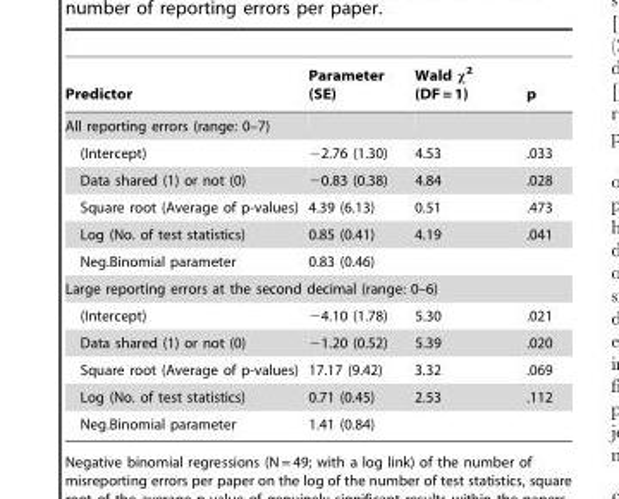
<table><thead><tr><td>Predictor</td><td>Parameter (SE)</td><td>Wald χ<sup>2</sup> (DF = 1)</td><td>p</td></tr></thead><tbody><tr><td colspan="4">All reporting errors (range: 0–7)</td></tr><tr><td>(Intercept)</td><td>−2.76 (1.30)</td><td>4.53</td><td>.033</td></tr><tr><td>Data shared (1) or not (0)</td><td>−0.83 (0.38)</td><td>4.84</td><td>.028</td></tr><tr><td>Square root (Average of p-values)</td><td>4.39 (6.13)</td><td>0.51</td><td>.473</td></tr><tr><td>Log (No. of test statistics)</td><td>0.85 (0.41)</td><td>4.19</td><td>.041</td></tr><tr><td>Neg.Binomial parameter</td><td>0.83 (0.46)</td><td></td><td></td></tr><tr><td colspan="4">Large reporting errors at the second decimal (range: 0–6)</td></tr><tr><td>(Intercept)</td><td>−4.10 (1.78)</td><td>5.30</td><td>.021</td></tr><tr><td>Data shared (1) or not (0)</td><td>−1.20 (0.52)</td><td>5.39</td><td>.020</td></tr><tr><td>Square root (Average of p-values)</td><td>17.17 (9.42)</td><td>3.32</td><td>.069</td></tr><tr><td>Log (No. of test statistics)</td><td>0.71 (0.45)</td><td>2.53</td><td>.112</td></tr><tr><td>Neg.Binomial parameter</td><td>1.41 (0.84)</td><td></td><td></td></tr></tbody></table>